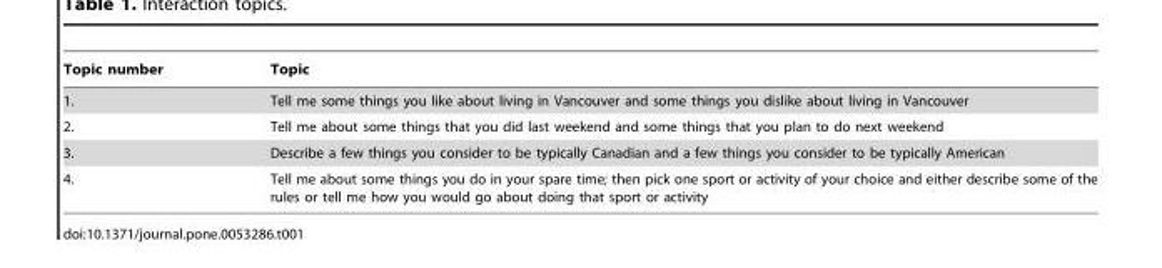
<table><thead><tr><td>Topic number</td><td>Topic</td></tr></thead><tbody><tr><td>1.</td><td>Tell me some things you like about living in Vancouver and some things you dislike about living in Vancouver</td></tr><tr><td>2.</td><td>Tell me about some things that you did last weekend and some things that you plan to do next weekend</td></tr><tr><td>3.</td><td>Describe a few things you consider to be typically Canadian and a few things you consider to be typically American</td></tr><tr><td>4.</td><td>Tell me about some things you do in your spare time; then pick one sport or activity of your choice and either describe some of the rules or tell me how you would go about doing that sport or activity</td></tr></tbody></table>